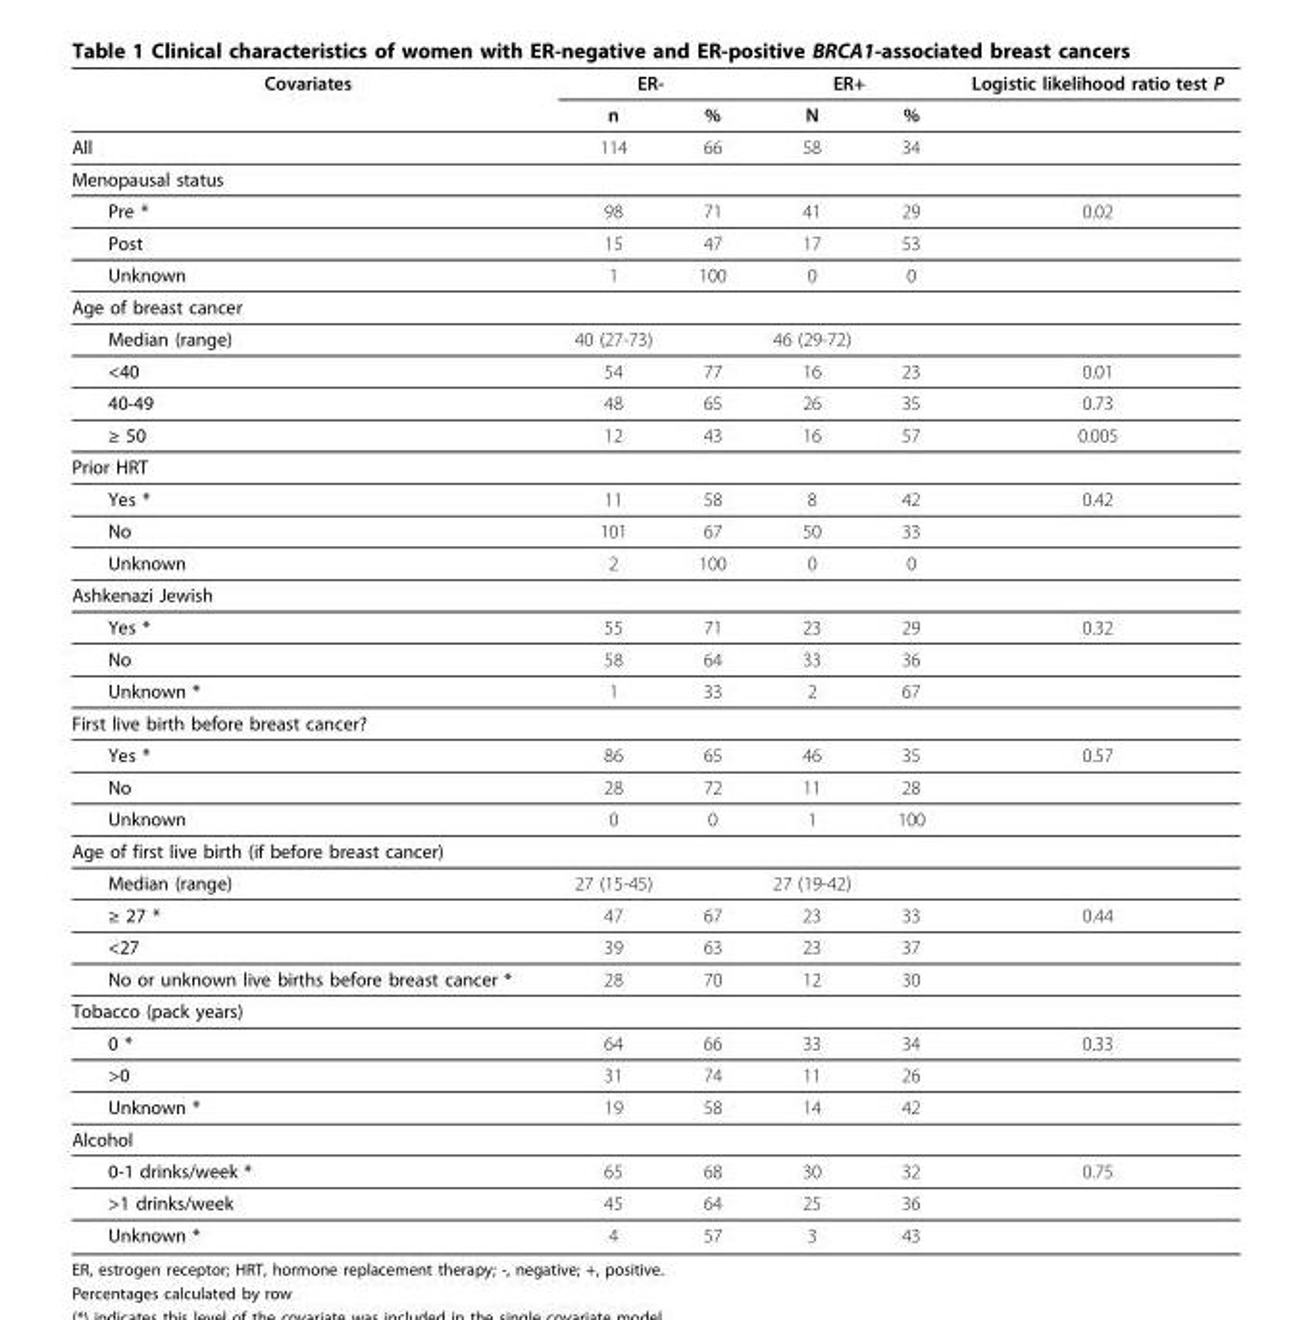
<table><thead><tr><td rowspan="2">Covariates</td><td colspan="2">ER-</td><td colspan="2">ER+</td><td rowspan="2">Logistic likelihood ratio test P</td></tr><tr><td>n</td><td>%</td><td>N</td><td>%</td></tr></thead><tbody><tr><td>All</td><td>114</td><td>66</td><td>58</td><td>34</td><td></td></tr><tr><td colspan="6">Menopausal status</td></tr><tr><td>Pre *</td><td>98</td><td>71</td><td>41</td><td>29</td><td>0.02</td></tr><tr><td>Post</td><td>15</td><td>47</td><td>17</td><td>53</td><td></td></tr><tr><td>Unknown</td><td>1</td><td>100</td><td>0</td><td>0</td><td></td></tr><tr><td colspan="6">Age of breast cancer</td></tr><tr><td>Median (range)</td><td>40 (27-73)</td><td></td><td>46 (29-72)</td><td></td><td></td></tr><tr><td>&lt;40</td><td>54</td><td>77</td><td>16</td><td>23</td><td>0.01</td></tr><tr><td>40-49</td><td>48</td><td>65</td><td>26</td><td>35</td><td>0.73</td></tr><tr><td>≥ 50</td><td>12</td><td>43</td><td>16</td><td>57</td><td>0.005</td></tr><tr><td colspan="6">Prior HRT</td></tr><tr><td>Yes *</td><td>11</td><td>58</td><td>8</td><td>42</td><td>0.42</td></tr><tr><td>No</td><td>101</td><td>67</td><td>50</td><td>33</td><td></td></tr><tr><td>Unknown</td><td>2</td><td>100</td><td>0</td><td>0</td><td></td></tr><tr><td colspan="6">Ashkenazi Jewish</td></tr><tr><td>Yes *</td><td>55</td><td>71</td><td>23</td><td>29</td><td>0.32</td></tr><tr><td>No</td><td>58</td><td>64</td><td>33</td><td>36</td><td></td></tr><tr><td>Unknown *</td><td>1</td><td>33</td><td>2</td><td>67</td><td></td></tr><tr><td colspan="6">First live birth before breast cancer?</td></tr><tr><td>Yes *</td><td>86</td><td>65</td><td>46</td><td>35</td><td>0.57</td></tr><tr><td>No</td><td>28</td><td>72</td><td>11</td><td>28</td><td></td></tr><tr><td>Unknown</td><td>0</td><td>0</td><td>1</td><td>100</td><td></td></tr><tr><td colspan="6">Age of first live birth (if before breast cancer)</td></tr><tr><td>Median (range)</td><td>27 (15-45)</td><td></td><td>27 (19-42)</td><td></td><td></td></tr><tr><td>≥ 27 *</td><td>47</td><td>67</td><td>23</td><td>33</td><td>0.44</td></tr><tr><td>&lt;27</td><td>39</td><td>63</td><td>23</td><td>37</td><td></td></tr><tr><td>No or unknown live births before breast cancer *</td><td>28</td><td>70</td><td>12</td><td>30</td><td></td></tr><tr><td colspan="6">Tobacco (pack years)</td></tr><tr><td>0 *</td><td>64</td><td>66</td><td>33</td><td>34</td><td>0.33</td></tr><tr><td>&gt;0</td><td>31</td><td>74</td><td>11</td><td>26</td><td></td></tr><tr><td>Unknown *</td><td>19</td><td>58</td><td>14</td><td>42</td><td></td></tr><tr><td colspan="6">Alcohol</td></tr><tr><td>0-1 drinks/week *</td><td>65</td><td>68</td><td>30</td><td>32</td><td>0.75</td></tr><tr><td>&gt;1 drinks/week</td><td>45</td><td>64</td><td>25</td><td>36</td><td></td></tr><tr><td>Unknown *</td><td>4</td><td>57</td><td>3</td><td>43</td><td></td></tr></tbody></table>